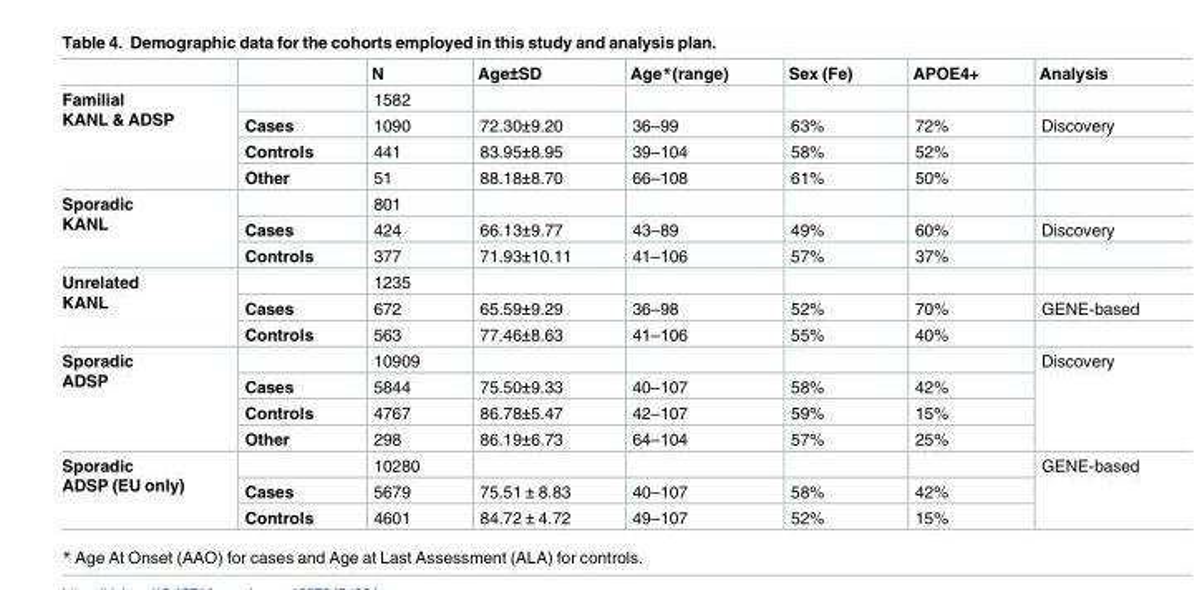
<table><thead><tr><td></td><td></td><td>N</td><td>Age±SD</td><td>Age*(range)</td><td>Sex (Fe)</td><td>APOE4+</td><td>Analysis</td></tr></thead><tbody><tr><td rowspan="4">Familial KANL &amp; ADSP</td><td></td><td>1582</td><td></td><td></td><td></td><td></td><td></td></tr><tr><td>Cases</td><td>1090</td><td>72.30±9.20</td><td>36–99</td><td>63%</td><td>72%</td><td>Discovery</td></tr><tr><td>Controls</td><td>441</td><td>83.95±8.95</td><td>39–104</td><td>58%</td><td>52%</td><td></td></tr><tr><td>Other</td><td>51</td><td>88.18±8.70</td><td>66–108</td><td>61%</td><td>50%</td><td></td></tr><tr><td rowspan="3">Sporadic KANL</td><td></td><td>801</td><td></td><td></td><td></td><td></td><td></td></tr><tr><td>Cases</td><td>424</td><td>66.13±9.77</td><td>43–89</td><td>49%</td><td>60%</td><td>Discovery</td></tr><tr><td>Controls</td><td>377</td><td>71.93±10.11</td><td>41–106</td><td>57%</td><td>37%</td><td></td></tr><tr><td rowspan="3">Unrelated KANL</td><td></td><td>1235</td><td></td><td></td><td></td><td></td><td></td></tr><tr><td>Cases</td><td>672</td><td>65.59±9.29</td><td>36–98</td><td>52%</td><td>70%</td><td>GENE-based</td></tr><tr><td>Controls</td><td>563</td><td>77.46±8.63</td><td>41–106</td><td>55%</td><td>40%</td><td></td></tr><tr><td rowspan="4">Sporadic ADSP</td><td></td><td>10909</td><td></td><td></td><td></td><td></td><td rowspan="4">Discovery</td></tr><tr><td>Cases</td><td>5844</td><td>75.50±9.33</td><td>40–107</td><td>58%</td><td>42%</td></tr><tr><td>Controls</td><td>4767</td><td>86.78±5.47</td><td>42–107</td><td>59%</td><td>15%</td></tr><tr><td>Other</td><td>298</td><td>86.19±6.73</td><td>64–104</td><td>57%</td><td>25%</td></tr><tr><td rowspan="3">Sporadic ADSP (EU only)</td><td></td><td>10280</td><td></td><td></td><td></td><td></td><td rowspan="3">GENE-based</td></tr><tr><td>Cases</td><td>5679</td><td>75.51 ± 8.83</td><td>40–107</td><td>58%</td><td>42%</td></tr><tr><td>Controls</td><td>4601</td><td>84.72 ± 4.72</td><td>49–107</td><td>52%</td><td>15%</td></tr></tbody></table>